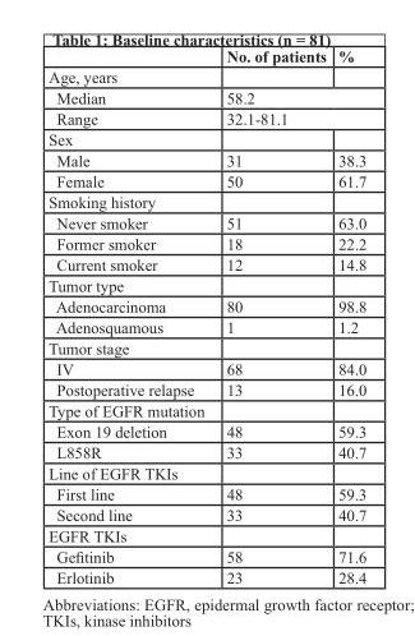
<table><thead><tr><td></td><td>No. of patients</td><td>%</td></tr></thead><tbody><tr><td colspan="3">Age, years</td></tr><tr><td>Median</td><td colspan="2">58.2</td></tr><tr><td>Range</td><td colspan="2">32.1-81.1</td></tr><tr><td colspan="3">Sex</td></tr><tr><td>Male</td><td>31</td><td>38.3</td></tr><tr><td>Female</td><td>50</td><td>61.7</td></tr><tr><td colspan="3">Smoking history</td></tr><tr><td>Never smoker</td><td>51</td><td>63.0</td></tr><tr><td>Former smoker</td><td>18</td><td>22.2</td></tr><tr><td>Current smoker</td><td>12</td><td>14.8</td></tr><tr><td colspan="3">Tumor type</td></tr><tr><td>Adenocarcinoma</td><td>80</td><td>98.8</td></tr><tr><td>Adenosquamous</td><td>1</td><td>1.2</td></tr><tr><td colspan="3">Tumor stage</td></tr><tr><td>IV</td><td>68</td><td>84.0</td></tr><tr><td>Postoperative relapse</td><td>13</td><td>16.0</td></tr><tr><td colspan="3">Type of EGFR mutation</td></tr><tr><td>Exon 19 deletion</td><td>48</td><td>59.3</td></tr><tr><td>L858R</td><td>33</td><td>40.7</td></tr><tr><td colspan="3">Line of EGFR TKIs</td></tr><tr><td>First line</td><td>48</td><td>59.3</td></tr><tr><td>Second line</td><td>33</td><td>40.7</td></tr><tr><td colspan="3">EGFR TKIs</td></tr><tr><td>Gefitinib</td><td>58</td><td>71.6</td></tr><tr><td>Erlotinib</td><td>23</td><td>28.4</td></tr></tbody></table>